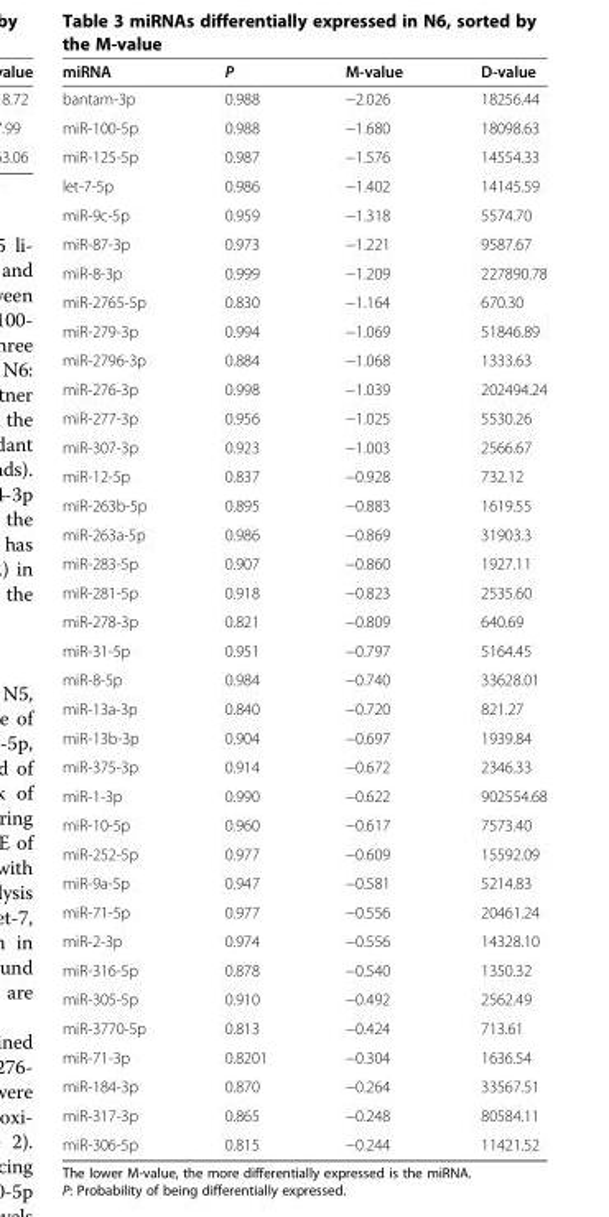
<table><thead><tr><td>miRNA</td><td>P</td><td>M-value</td><td>D-value</td></tr></thead><tbody><tr><td>bantam-3p</td><td>0.988</td><td>−2.026</td><td>18256.44</td></tr><tr><td>miR-100-5p</td><td>0.988</td><td>−1.680</td><td>18098.63</td></tr><tr><td>miR-125-5p</td><td>0.987</td><td>−1.576</td><td>14554.33</td></tr><tr><td>let-7-5p</td><td>0.986</td><td>−1.402</td><td>14145.59</td></tr><tr><td>miR-9c-5p</td><td>0.959</td><td>−1.318</td><td>5574.70</td></tr><tr><td>miR-87-3p</td><td>0.973</td><td>−1.221</td><td>9587.67</td></tr><tr><td>miR-8-3p</td><td>0.999</td><td>−1.209</td><td>227890.78</td></tr><tr><td>miR-2765-5p</td><td>0.830</td><td>−1.164</td><td>670.30</td></tr><tr><td>miR-279-3p</td><td>0.994</td><td>−1.069</td><td>51846.89</td></tr><tr><td>miR-2796-3p</td><td>0.884</td><td>−1.068</td><td>1333.63</td></tr><tr><td>miR-276-3p</td><td>0.998</td><td>−1.039</td><td>202494.24</td></tr><tr><td>miR-277-3p</td><td>0.956</td><td>−1.025</td><td>5530.26</td></tr><tr><td>miR-307-3p</td><td>0.923</td><td>−1.003</td><td>2566.67</td></tr><tr><td>miR-12-5p</td><td>0.837</td><td>−0.928</td><td>732.12</td></tr><tr><td>miR-263b-5p</td><td>0.895</td><td>−0.883</td><td>1619.55</td></tr><tr><td>miR-263a-5p</td><td>0.986</td><td>−0.869</td><td>31903.3</td></tr><tr><td>miR-283-5p</td><td>0.907</td><td>−0.860</td><td>1927.11</td></tr><tr><td>miR-281-5p</td><td>0.918</td><td>−0.823</td><td>2535.60</td></tr><tr><td>miR-278-3p</td><td>0.821</td><td>−0.809</td><td>640.69</td></tr><tr><td>miR-31-5p</td><td>0.951</td><td>−0.797</td><td>5164.45</td></tr><tr><td>miR-8-5p</td><td>0.984</td><td>−0.740</td><td>33628.01</td></tr><tr><td>miR-13a-3p</td><td>0.840</td><td>−0.720</td><td>821.27</td></tr><tr><td>miR-13b-3p</td><td>0.904</td><td>−0.697</td><td>1939.84</td></tr><tr><td>miR-375-3p</td><td>0.914</td><td>−0.672</td><td>2346.33</td></tr><tr><td>miR-1-3p</td><td>0.990</td><td>−0.622</td><td>902554.68</td></tr><tr><td>miR-10-5p</td><td>0.960</td><td>−0.617</td><td>7573.40</td></tr><tr><td>miR-252-5p</td><td>0.977</td><td>−0.609</td><td>15592.09</td></tr><tr><td>miR-9a-5p</td><td>0.947</td><td>−0.581</td><td>5214.83</td></tr><tr><td>miR-71-5p</td><td>0.977</td><td>−0.556</td><td>20461.24</td></tr><tr><td>miR-2-3p</td><td>0.974</td><td>−0.556</td><td>14328.10</td></tr><tr><td>miR-316-5p</td><td>0.878</td><td>−0.540</td><td>1350.32</td></tr><tr><td>miR-305-5p</td><td>0.910</td><td>−0.492</td><td>2562.49</td></tr><tr><td>miR-3770-5p</td><td>0.813</td><td>−0.424</td><td>713.61</td></tr><tr><td>miR-71-3p</td><td>0.8201</td><td>−0.304</td><td>1636.54</td></tr><tr><td>miR-184-3p</td><td>0.870</td><td>−0.264</td><td>33567.51</td></tr><tr><td>miR-317-3p</td><td>0.865</td><td>−0.248</td><td>80584.11</td></tr><tr><td>miR-306-5p</td><td>0.815</td><td>−0.244</td><td>11421.52</td></tr></tbody></table>